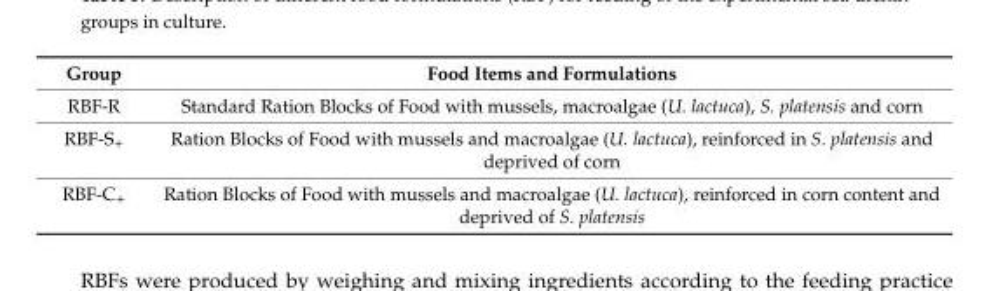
<table><thead><tr><td>Group</td><td>Food Items and Formulations</td></tr></thead><tbody><tr><td>RBF-R</td><td>Standard Ration Blocks of Food with mussels, macroalgae (U. lactuca), S. platensis and corn</td></tr><tr><td>RBF-S<sub>+</sub></td><td>Ration Blocks of Food with mussels and macroalgae (U. lactuca), reinforced in S. platensis and deprived of corn</td></tr><tr><td>RBF-C<sub>+</sub></td><td>Ration Blocks of Food with mussels and macroalgae (U. lactuca), reinforced in corn content and deprived of S. platensis</td></tr></tbody></table>